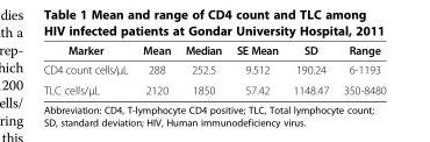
<table><thead><tr><td>Marker</td><td>Mean</td><td>Median</td><td>SE Mean</td><td>SD</td><td>Range</td></tr></thead><tbody><tr><td>CD4 count cells/μL</td><td>288</td><td>252.5</td><td>9.512</td><td>190.24</td><td>6-1193</td></tr><tr><td>TLC cells/μL</td><td>2120</td><td>1850</td><td>57.42</td><td>1148.47</td><td>350-8480</td></tr></tbody></table>